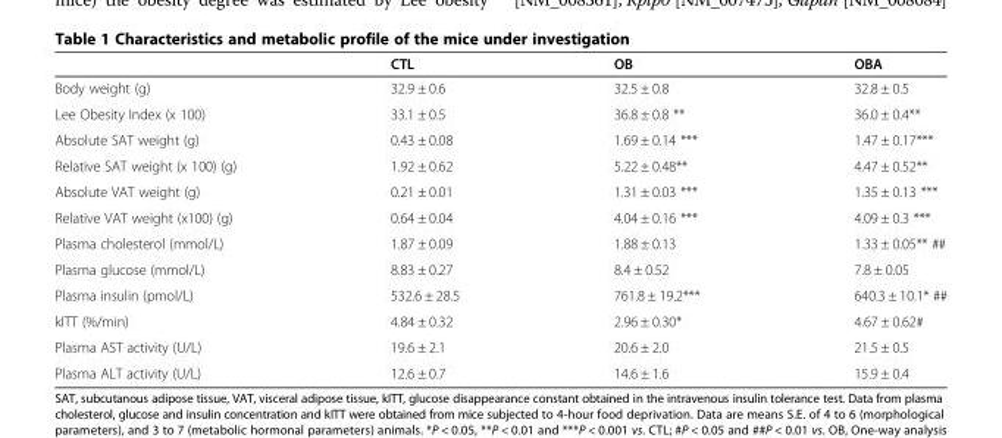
<table><thead><tr><td></td><td>CTL</td><td>OB</td><td>OBA</td></tr></thead><tbody><tr><td>Body weight (g)</td><td>32.9 ± 0.6</td><td>32.5 ± 0.8</td><td>32.8 ± 0.5</td></tr><tr><td>Lee Obesity Index (x 100)</td><td>33.1 ± 0.5</td><td>36.8 ± 0.8 **</td><td>36.0 ± 0.4**</td></tr><tr><td>Absolute SAT weight (g)</td><td>0.43 ± 0.08</td><td>1.69 ± 0.14 ***</td><td>1.47 ± 0.17***</td></tr><tr><td>Relative SAT weight (x 100) (g)</td><td>1.92 ± 0.62</td><td>5.22 ± 0.48**</td><td>4.47 ± 0.52**</td></tr><tr><td>Absolute VAT weight (g)</td><td>0.21 ± 0.01</td><td>1.31 ± 0.03 ***</td><td>1.35 ± 0.13 ***</td></tr><tr><td>Relative VAT weight (x100) (g)</td><td>0.64 ± 0.04</td><td>4.04 ± 0.16 ***</td><td>4.09 ± 0.3 ***</td></tr><tr><td>Plasma cholesterol (mmol/L)</td><td>1.87 ± 0.09</td><td>1.88 ± 0.13</td><td>1.33 ± 0.05** ##</td></tr><tr><td>Plasma glucose (mmol/L)</td><td>8.83 ± 0.27</td><td>8.4 ± 0.52</td><td>7.8 ± 0.05</td></tr><tr><td>Plasma insulin (pmol/L)</td><td>532.6 ± 28.5</td><td>761.8 ± 19.2***</td><td>640.3 ± 10.1* ##</td></tr><tr><td>kITT (%/min)</td><td>4.84 ± 0.32</td><td>2.96 ± 0.30*</td><td>4.67 ± 0.62#</td></tr><tr><td>Plasma AST activity (U/L)</td><td>19.6 ± 2.1</td><td>20.6 ± 2.0</td><td>21.5 ± 0.5</td></tr><tr><td>Plasma ALT activity (U/L)</td><td>12.6 ± 0.7</td><td>14.6 ± 1.6</td><td>15.9 ± 0.4</td></tr></tbody></table>